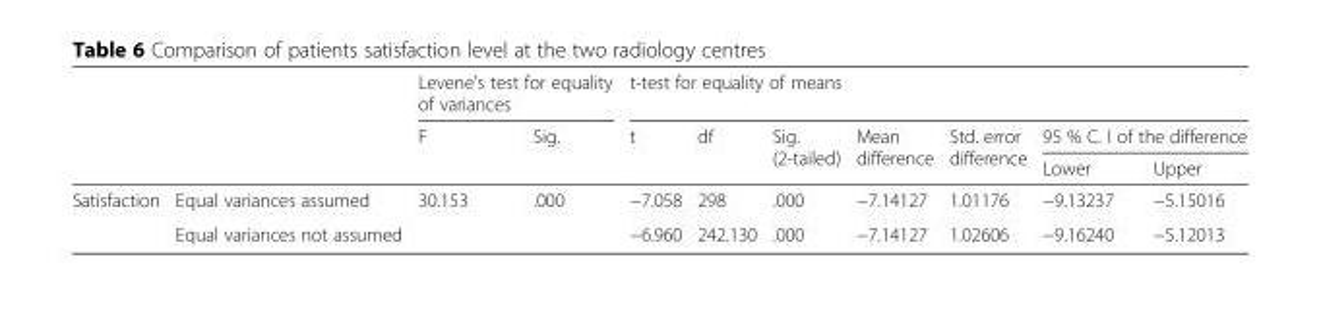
<table><thead><tr><td rowspan="3"></td><td rowspan="3"></td><td colspan="2">Levene&#x27;s test for equality of variances</td><td colspan="7">t-test for equality of means</td></tr><tr><td rowspan="2">F</td><td rowspan="2">Sig.</td><td rowspan="2">t</td><td rowspan="2">df</td><td rowspan="2">Sig. (2-tailed)</td><td rowspan="2">Mean difference</td><td rowspan="2">Std. error difference</td><td colspan="2">95 % C. I of the difference</td></tr><tr><td>Lower</td><td>Upper</td></tr></thead><tbody><tr><td rowspan="2">Satisfaction</td><td>Equal variances assumed</td><td>30.153</td><td>.000</td><td>−7.058</td><td>298</td><td>.000</td><td>−7.14127</td><td>1.01176</td><td>−9.13237</td><td>−5.15016</td></tr><tr><td>Equal variances not assumed</td><td></td><td></td><td>−6.960</td><td>242.130</td><td>.000</td><td>−7.14127</td><td>1.02606</td><td>−9.16240</td><td>−5.12013</td></tr></tbody></table>